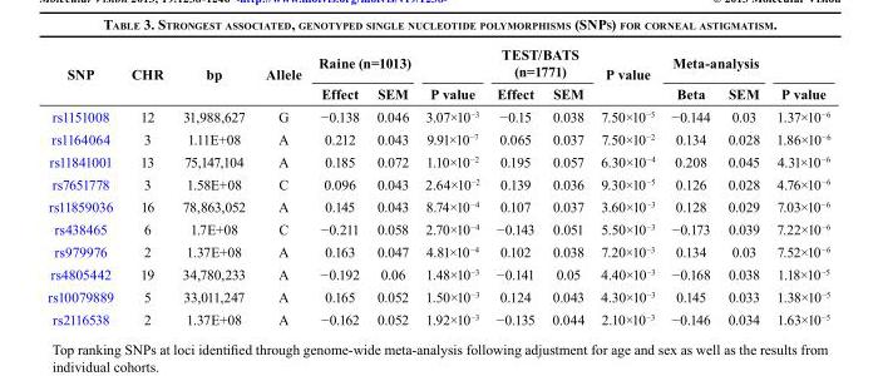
<table><thead><tr><td rowspan="2">SNP</td><td rowspan="2">CHR</td><td rowspan="2">bp</td><td rowspan="2">Allele</td><td colspan="2">Raine (n=1013)</td><td rowspan="2">P value</td><td colspan="2">TEST/BATS (n=1771)</td><td rowspan="2">P value</td><td colspan="2">Meta-analysis</td><td rowspan="2">P value</td></tr><tr><td>Effect</td><td>SEM</td><td>Effect</td><td>SEM</td><td>Beta</td><td>SEM</td></tr></thead><tbody><tr><td>rs1151008</td><td>12</td><td>31,988,627</td><td>G</td><td>−0.138</td><td>0.046</td><td>3.07×10<sup>−3</sup></td><td>−0.15</td><td>0.038</td><td>7.50×10<sup>−5</sup></td><td>−0.144</td><td>0.03</td><td>1.37×10<sup>−6</sup></td></tr><tr><td>rs1164064</td><td>3</td><td>1.11E+08</td><td>A</td><td>0.212</td><td>0.043</td><td>9.91×10<sup>−7</sup></td><td>0.065</td><td>0.037</td><td>7.50×10<sup>−2</sup></td><td>0.134</td><td>0.028</td><td>1.86×10<sup>−6</sup></td></tr><tr><td>rs11841001</td><td>13</td><td>75,147,104</td><td>A</td><td>0.185</td><td>0.072</td><td>1.10×10<sup>−2</sup></td><td>0.195</td><td>0.057</td><td>6.30×10<sup>−4</sup></td><td>0.208</td><td>0.045</td><td>4.31×10<sup>−6</sup></td></tr><tr><td>rs7651778</td><td>3</td><td>1.58E+08</td><td>C</td><td>0.096</td><td>0.043</td><td>2.64×10<sup>−2</sup></td><td>0.139</td><td>0.036</td><td>9.30×10<sup>−5</sup></td><td>0.126</td><td>0.028</td><td>4.76×10<sup>−6</sup></td></tr><tr><td>rs11859036</td><td>16</td><td>78,863,052</td><td>A</td><td>0.145</td><td>0.043</td><td>8.74×10<sup>−4</sup></td><td>0.107</td><td>0.037</td><td>3.60×10<sup>−3</sup></td><td>0.128</td><td>0.029</td><td>7.03×10<sup>−6</sup></td></tr><tr><td>rs438465</td><td>6</td><td>1.7E+08</td><td>C</td><td>−0.211</td><td>0.058</td><td>2.70×10<sup>−4</sup></td><td>−0.143</td><td>0.051</td><td>5.50×10<sup>−3</sup></td><td>−0.173</td><td>0.039</td><td>7.22×10<sup>−6</sup></td></tr><tr><td>rs979976</td><td>2</td><td>1.37E+08</td><td>A</td><td>0.163</td><td>0.047</td><td>4.81×10<sup>−4</sup></td><td>0.102</td><td>0.038</td><td>7.20×10<sup>−3</sup></td><td>0.134</td><td>0.03</td><td>7.52×10<sup>−6</sup></td></tr><tr><td>rs4805442</td><td>19</td><td>34,780,233</td><td>A</td><td>−0.192</td><td>0.06</td><td>1.48×10<sup>−3</sup></td><td>−0.141</td><td>0.05</td><td>4.40×10<sup>−3</sup></td><td>−0.168</td><td>0.038</td><td>1.18×10<sup>−5</sup></td></tr><tr><td>rs10079889</td><td>5</td><td>33,011,247</td><td>A</td><td>0.165</td><td>0.052</td><td>1.50×10<sup>−3</sup></td><td>0.124</td><td>0.043</td><td>4.30×10<sup>−3</sup></td><td>0.145</td><td>0.033</td><td>1.38×10<sup>−5</sup></td></tr><tr><td>rs2116538</td><td>2</td><td>1.37E+08</td><td>A</td><td>−0.162</td><td>0.052</td><td>1.92×10<sup>−3</sup></td><td>−0.135</td><td>0.044</td><td>2.10×10<sup>−3</sup></td><td>−0.146</td><td>0.034</td><td>1.63×10<sup>−5</sup></td></tr></tbody></table>